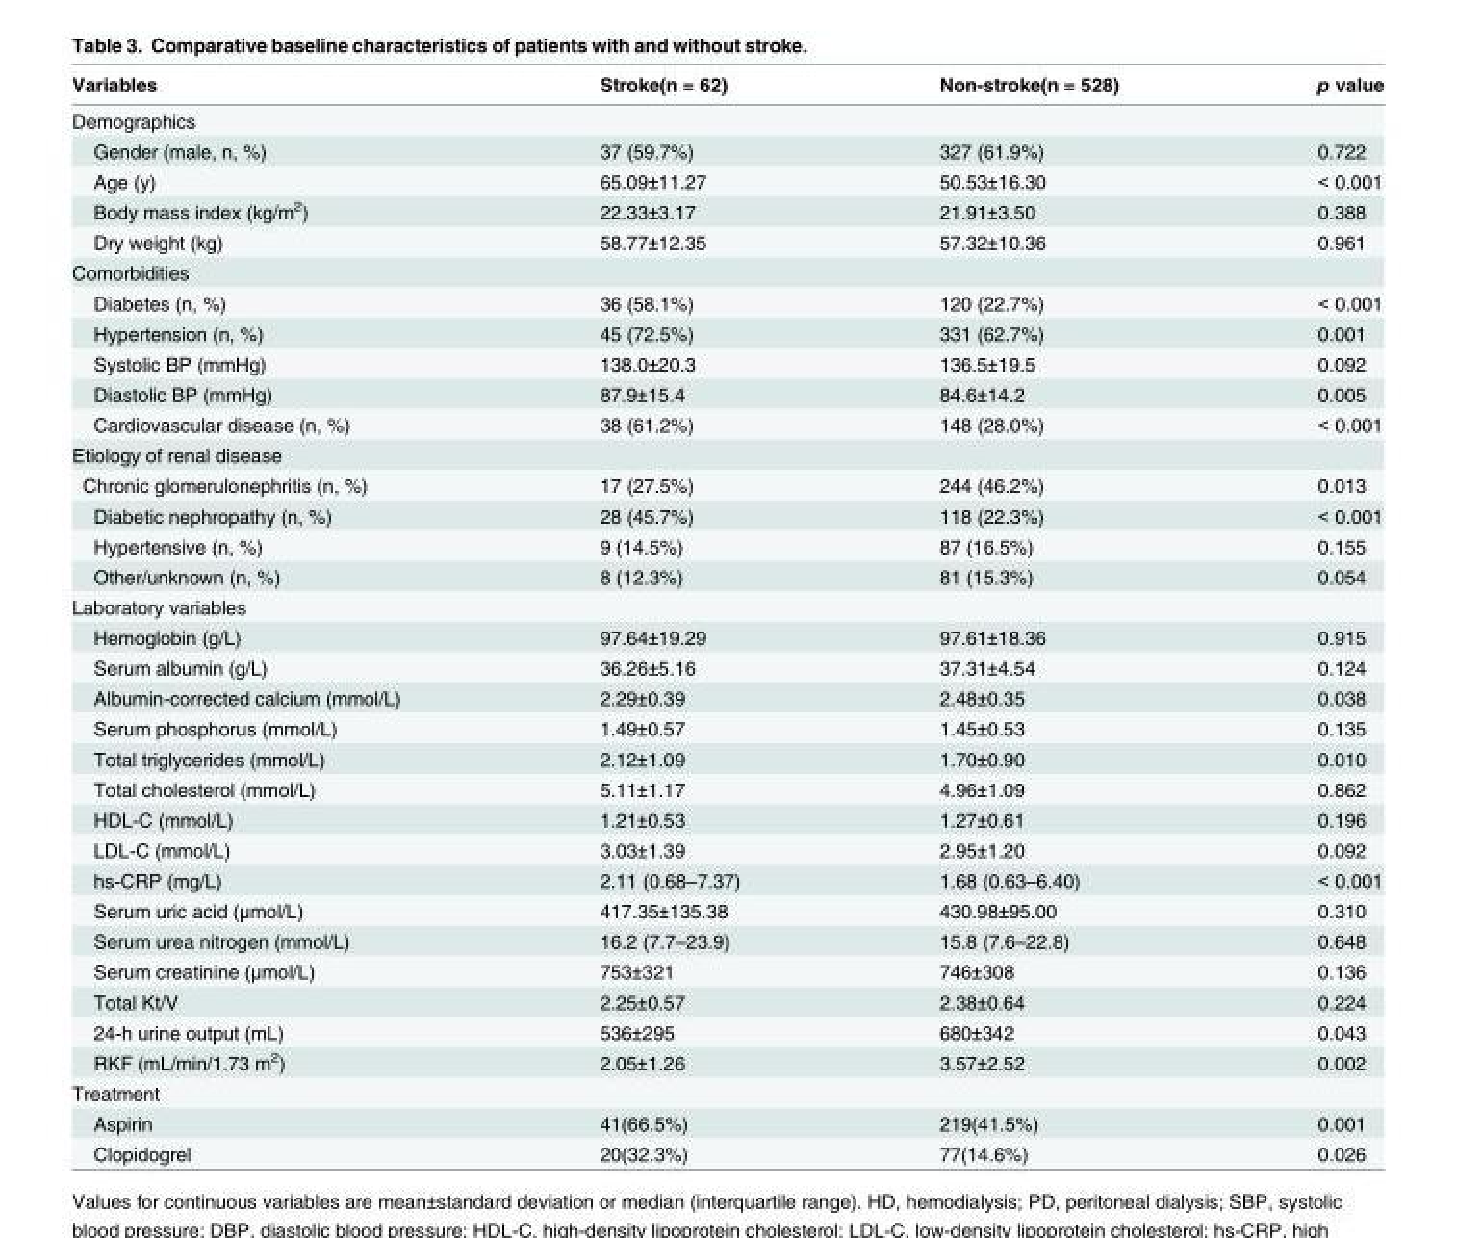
<table><thead><tr><td>Variables</td><td>Stroke(n = 62)</td><td>Non-stroke(n = 528)</td><td>p value</td></tr></thead><tbody><tr><td colspan="4">Demographics</td></tr><tr><td>Gender (male, n, %)</td><td>37 (59.7%)</td><td>327 (61.9%)</td><td>0.722</td></tr><tr><td>Age (y)</td><td>65.09±11.27</td><td>50.53±16.30</td><td>&lt; 0.001</td></tr><tr><td>Body mass index (kg/m<sup>2</sup>)</td><td>22.33±3.17</td><td>21.91±3.50</td><td>0.388</td></tr><tr><td>Dry weight (kg)</td><td>58.77±12.35</td><td>57.32±10.36</td><td>0.961</td></tr><tr><td colspan="4">Comorbidities</td></tr><tr><td>Diabetes (n, %)</td><td>36 (58.1%)</td><td>120 (22.7%)</td><td>&lt; 0.001</td></tr><tr><td>Hypertension (n, %)</td><td>45 (72.5%)</td><td>331 (62.7%)</td><td>0.001</td></tr><tr><td>Systolic BP (mmHg)</td><td>138.0±20.3</td><td>136.5±19.5</td><td>0.092</td></tr><tr><td>Diastolic BP (mmHg)</td><td>87.9±15.4</td><td>84.6±14.2</td><td>0.005</td></tr><tr><td>Cardiovascular disease (n, %)</td><td>38 (61.2%)</td><td>148 (28.0%)</td><td>&lt; 0.001</td></tr><tr><td colspan="4">Etiology of renal disease</td></tr><tr><td>Chronic glomerulonephritis (n, %)</td><td>17 (27.5%)</td><td>244 (46.2%)</td><td>0.013</td></tr><tr><td>Diabetic nephropathy (n, %)</td><td>28 (45.7%)</td><td>118 (22.3%)</td><td>&lt; 0.001</td></tr><tr><td>Hypertensive (n, %)</td><td>9 (14.5%)</td><td>87 (16.5%)</td><td>0.155</td></tr><tr><td>Other/unknown (n, %)</td><td>8 (12.3%)</td><td>81 (15.3%)</td><td>0.054</td></tr><tr><td colspan="4">Laboratory variables</td></tr><tr><td>Hemoglobin (g/L)</td><td>97.64±19.29</td><td>97.61±18.36</td><td>0.915</td></tr><tr><td>Serum albumin (g/L)</td><td>36.26±5.16</td><td>37.31±4.54</td><td>0.124</td></tr><tr><td>Albumin-corrected calcium (mmol/L)</td><td>2.29±0.39</td><td>2.48±0.35</td><td>0.038</td></tr><tr><td>Serum phosphorus (mmol/L)</td><td>1.49±0.57</td><td>1.45±0.53</td><td>0.135</td></tr><tr><td>Total triglycerides (mmol/L)</td><td>2.12±1.09</td><td>1.70±0.90</td><td>0.010</td></tr><tr><td>Total cholesterol (mmol/L)</td><td>5.11±1.17</td><td>4.96±1.09</td><td>0.862</td></tr><tr><td>HDL-C (mmol/L)</td><td>1.21±0.53</td><td>1.27±0.61</td><td>0.196</td></tr><tr><td>LDL-C (mmol/L)</td><td>3.03±1.39</td><td>2.95±1.20</td><td>0.092</td></tr><tr><td>hs-CRP (mg/L)</td><td>2.11 (0.68–7.37)</td><td>1.68 (0.63–6.40)</td><td>&lt; 0.001</td></tr><tr><td>Serum uric acid (μmol/L)</td><td>417.35±135.38</td><td>430.98±95.00</td><td>0.310</td></tr><tr><td>Serum urea nitrogen (mmol/L)</td><td>16.2 (7.7–23.9)</td><td>15.8 (7.6–22.8)</td><td>0.648</td></tr><tr><td>Serum creatinine (μmol/L)</td><td>753±321</td><td>746±308</td><td>0.136</td></tr><tr><td>Total Kt/V</td><td>2.25±0.57</td><td>2.38±0.64</td><td>0.224</td></tr><tr><td>24-h urine output (mL)</td><td>536±295</td><td>680±342</td><td>0.043</td></tr><tr><td>RKF (mL/min/1.73 m<sup>2</sup>)</td><td>2.05±1.26</td><td>3.57±2.52</td><td>0.002</td></tr><tr><td colspan="4">Treatment</td></tr><tr><td>Aspirin</td><td>41(66.5%)</td><td>219(41.5%)</td><td>0.001</td></tr><tr><td>Clopidogrel</td><td>20(32.3%)</td><td>77(14.6%)</td><td>0.026</td></tr></tbody></table>